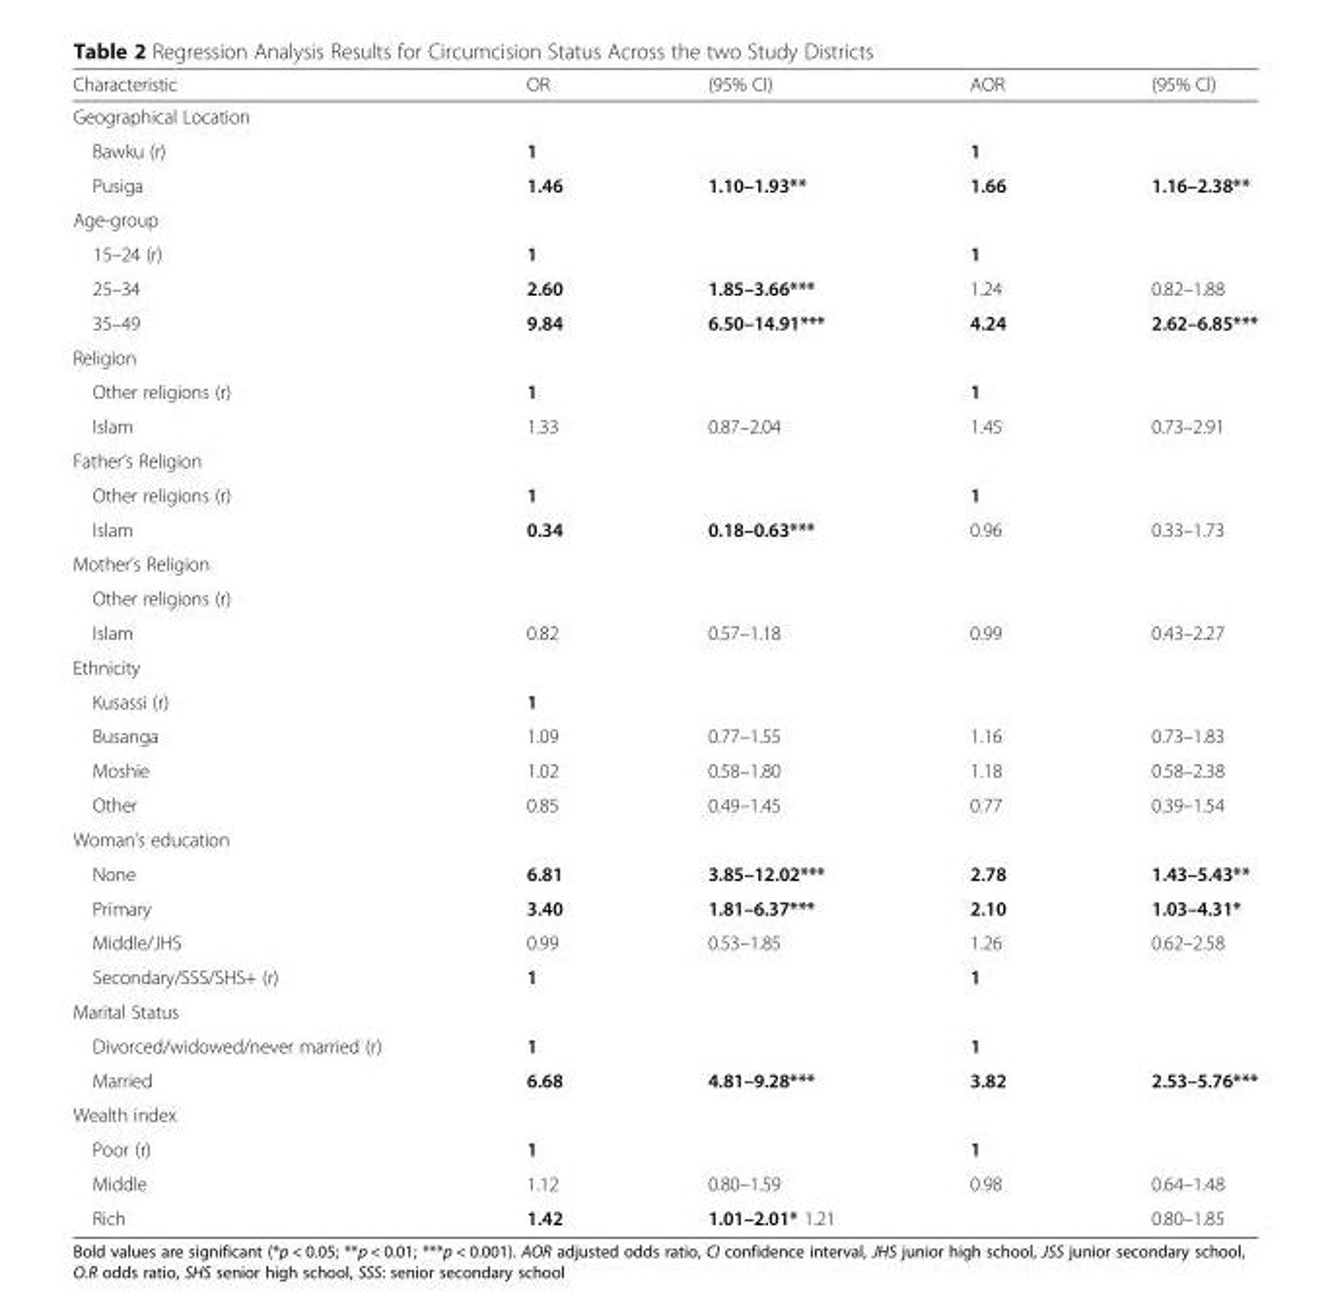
<table><thead><tr><td>Characteristic</td><td>OR</td><td>(95% CI)</td><td>AOR</td><td>(95% Cl)</td></tr></thead><tbody><tr><td colspan="5">Geographical Location</td></tr><tr><td>Bawku (r)</td><td>1</td><td></td><td>1</td><td></td></tr><tr><td>Pusiga</td><td>1.46</td><td>1.10–1.93**</td><td>1.66</td><td>1.16–2.38**</td></tr><tr><td colspan="5">Age-group</td></tr><tr><td>15–24 (r)</td><td>1</td><td></td><td>1</td><td></td></tr><tr><td>25–34</td><td>2.60</td><td>1.85–3.66***</td><td>1.24</td><td>0.82–1.88</td></tr><tr><td>35–49</td><td>9.84</td><td>6.50–14.91***</td><td>4.24</td><td>2.62–6.85***</td></tr><tr><td colspan="5">Religion</td></tr><tr><td>Other religions (r)</td><td>1</td><td></td><td>1</td><td></td></tr><tr><td>Islam</td><td>1.33</td><td>0.87–2.04</td><td>1.45</td><td>0.73–2.91</td></tr><tr><td colspan="5">Father’s Religion</td></tr><tr><td>Other religions (r)</td><td>1</td><td></td><td>1</td><td></td></tr><tr><td>Islam</td><td>0.34</td><td>0.18–0.63***</td><td>0.96</td><td>0.33–1.73</td></tr><tr><td colspan="5">Mother’s Religion</td></tr><tr><td colspan="5">Other religions (r)</td></tr><tr><td>Islam</td><td>0.82</td><td>0.57–1.18</td><td>0.99</td><td>0.43–2.27</td></tr><tr><td colspan="5">Ethnicity</td></tr><tr><td>Kusassi (r)</td><td>1</td><td></td><td></td><td></td></tr><tr><td>Busanga</td><td>1.09</td><td>0.77–1.55</td><td>1.16</td><td>0.73–1.83</td></tr><tr><td>Moshie</td><td>1.02</td><td>0.58–1.80</td><td>1.18</td><td>0.58–2.38</td></tr><tr><td>Other</td><td>0.85</td><td>0.49–1.45</td><td>0.77</td><td>0.39–1.54</td></tr><tr><td colspan="5">Woman’s education</td></tr><tr><td>None</td><td>6.81</td><td>3.85–12.02***</td><td>2.78</td><td>1.43–5.43**</td></tr><tr><td>Primary</td><td>3.40</td><td>1.81–6.37***</td><td>2.10</td><td>1.03–4.31*</td></tr><tr><td>Middle/JHS</td><td>0.99</td><td>0.53–1.85</td><td>1.26</td><td>0.62–2.58</td></tr><tr><td>Secondary/SSS/SHS+ (r)</td><td>1</td><td></td><td>1</td><td></td></tr><tr><td colspan="5">Marital Status</td></tr><tr><td>Divorced/widowed/never married (r)</td><td>1</td><td></td><td>1</td><td></td></tr><tr><td>Married</td><td>6.68</td><td>4.81–9.28***</td><td>3.82</td><td>2.53–5.76***</td></tr><tr><td colspan="5">Wealth index</td></tr><tr><td>Poor (r)</td><td>1</td><td></td><td>1</td><td></td></tr><tr><td>Middle</td><td>1.12</td><td>0.80–1.59</td><td>0.98</td><td>0.64–1.48</td></tr><tr><td>Rich</td><td>1.42</td><td colspan="2">1.01–2.01* 1.21</td><td>0.80–1.85</td></tr></tbody></table>